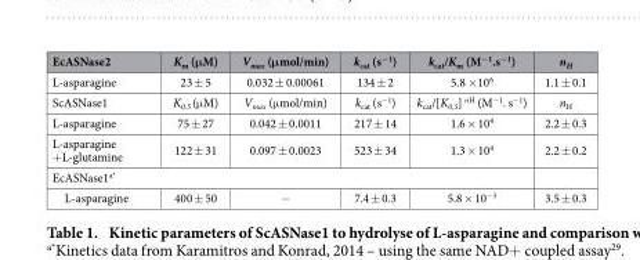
<table><thead><tr><td>EcASNase2</td><td>K<sub>m</sub> (μM)</td><td>V<sub>max</sub> (μmol/min)</td><td>k<sub>cat</sub> (s<sup>−1</sup>)</td><td>k<sub>cat</sub>/K<sub>m</sub> (M<sup>−1</sup>.s<sup>−1</sup>)</td><td>n<sub>H</sub></td></tr></thead><tbody><tr><td>L-asparagine</td><td>23 ± 5</td><td>0.032 ± 0.00061</td><td>134 ± 2</td><td>5.8 ×10<sup>6</sup></td><td>1.1 ± 0.1</td></tr><tr><td>ScASNase1</td><td>K<sub>0.5</sub> (μM)</td><td>V<sub>max</sub> (μmol/min)</td><td>k<sub>cat</sub> (s<sup>−1</sup>)</td><td>k<sub>cat</sub>/[K<sub>0,5</sub>] <sup>nH</sup> (M<sup>−1</sup>. s<sup>−1</sup>)</td><td>n<sub>H</sub></td></tr><tr><td>L-asparagine</td><td>75 ± 27</td><td>0.042 ± 0.0011</td><td>217 ± 14</td><td>1.6 × 10<sup>4</sup></td><td>2.2 ± 0.3</td></tr><tr><td>L-asparagine +L-glutamine</td><td>122 ± 31</td><td>0.097 ± 0.0023</td><td>523 ± 34</td><td>1.3 × 10<sup>4</sup></td><td>2.2 ± 0.2</td></tr><tr><td colspan="6">EcASNase1a*</td></tr><tr><td>L-asparagine</td><td>400 ± 50</td><td>−</td><td>7.4 ± 0.3</td><td>5.8 × 10<sup>−3</sup></td><td>3.5 ± 0.3</td></tr></tbody></table>